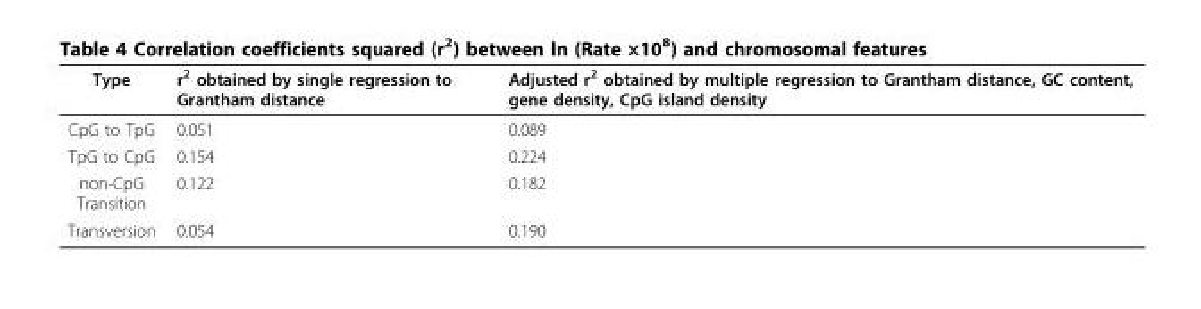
<table><thead><tr><td>Type</td><td>r<sup>2</sup> obtained by single regression to Grantham distance</td><td>Adjusted r<sup>2</sup> obtained by multiple regression to Grantham distance, GC content, gene density, CpG island density</td></tr></thead><tbody><tr><td>CpG to TpG</td><td>0.051</td><td>0.089</td></tr><tr><td>TpG to CpG</td><td>0.154</td><td>0.224</td></tr><tr><td>non-CpG Transition</td><td>0.122</td><td>0.182</td></tr><tr><td>Transversion</td><td>0.054</td><td>0.190</td></tr></tbody></table>